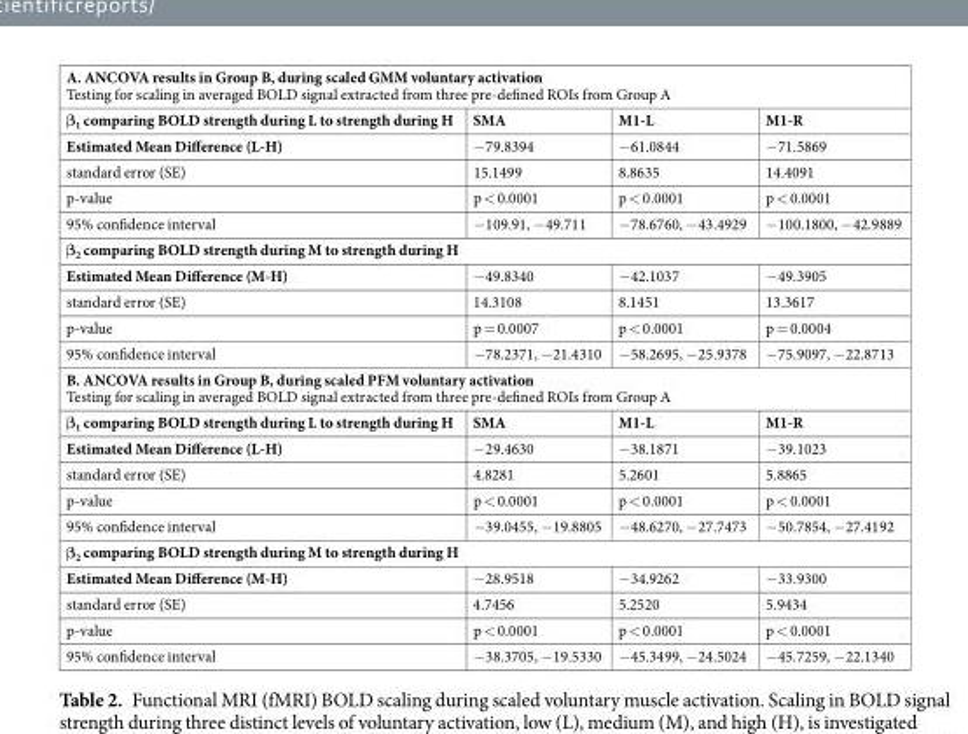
<table><tbody><tr><td colspan="4">A. ANCOVA results in Group B, during scaled GMM voluntary activation Testing for scaling in averaged BOLD signal extracted from three pre-defined ROIs from Group A</td></tr><tr><td>β<sub>1</sub> comparing BOLD strength during L to strength during H</td><td>SMA</td><td>M1-L</td><td>M1-R</td></tr><tr><td>Estimated Mean Difference (L-H)</td><td>−79.8394</td><td>−61.0844</td><td>−71.5869</td></tr><tr><td>standard error (SE)</td><td>15.1499</td><td>8.8635</td><td>14.4091</td></tr><tr><td>p-value</td><td>p &lt; 0.0001</td><td>p &lt; 0.0001</td><td>p &lt; 0.0001</td></tr><tr><td>95% confidence interval</td><td>−109.91, −49.711</td><td>−78.6760, −43.4929</td><td>−100.1800, −42.9889</td></tr><tr><td colspan="4">β<sub>2</sub> comparing BOLD strength during M to strength during H</td></tr><tr><td>Estimated Mean Difference (M-H)</td><td>−49.8340</td><td>−42.1037</td><td>−49.3905</td></tr><tr><td>standard error (SE)</td><td>14.3108</td><td>8.1451</td><td>13.3617</td></tr><tr><td>p-value</td><td>p = 0.0007</td><td>p &lt; 0.0001</td><td>p = 0.0004</td></tr><tr><td>95% confidence interval</td><td>−78.2371, −21.4310</td><td>−58.2695, −25.9378</td><td>−75.9097, −22.8713</td></tr><tr><td colspan="4">B. ANCOVA results in Group B, during scaled PFM voluntary activation Testing for scaling in averaged BOLD signal extracted from three pre-defined ROIs from Group A</td></tr><tr><td>β<sub>1</sub> comparing BOLD strength during L to strength during H</td><td>SMA</td><td>M1-L</td><td>M1-R</td></tr><tr><td>Estimated Mean Difference (L-H)</td><td>−29.4630</td><td>−38.1871</td><td>−39.1023</td></tr><tr><td>standard error (SE)</td><td>4.8281</td><td>5.2601</td><td>5.8865</td></tr><tr><td>p-value</td><td>p &lt; 0.0001</td><td>p &lt; 0.0001</td><td>p &lt; 0.0001</td></tr><tr><td>95% confidence interval</td><td>−39.0455, −19.8805</td><td>−48.6270, −27.7473</td><td>−50.7854, −27.4192</td></tr><tr><td colspan="4">β<sub>2</sub> comparing BOLD strength during M to strength during H</td></tr><tr><td>Estimated Mean Difference (M-H)</td><td>−28.9518</td><td>−34.9262</td><td>−33.9300</td></tr><tr><td>standard error (SE)</td><td>4.7456</td><td>5.2520</td><td>5.9434</td></tr><tr><td>p-value</td><td>p &lt; 0.0001</td><td>p &lt; 0.0001</td><td>p &lt; 0.0001</td></tr><tr><td>95% confidence interval</td><td>−38.3705, −19.5330</td><td>−45.3499, −24.5024</td><td>−45.7259, −22.1340</td></tr></tbody></table>